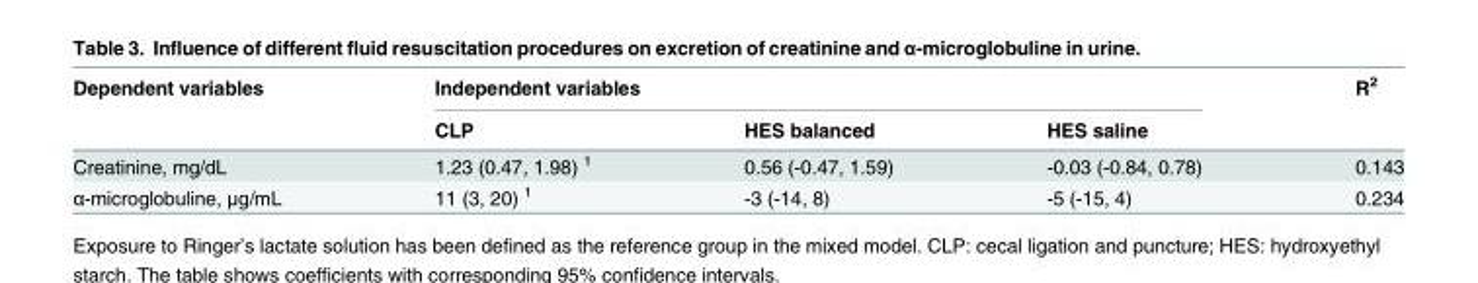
<table><thead><tr><td rowspan="2">Dependent variables</td><td colspan="3">Independent variables</td><td rowspan="2">R<sup>2</sup></td></tr><tr><td>CLP</td><td>HES balanced</td><td>HES saline</td></tr></thead><tbody><tr><td>Creatinine, mg/dL</td><td>1.23 (0.47, 1.98) <sup>1</sup></td><td>0.56 (-0.47, 1.59)</td><td>-0.03 (-0.84, 0.78)</td><td>0.143</td></tr><tr><td>α-microglobuline, μg/mL</td><td>11 (3, 20) <sup>1</sup></td><td>-3 (-14, 8)</td><td>-5 (-15, 4)</td><td>0.234</td></tr></tbody></table>